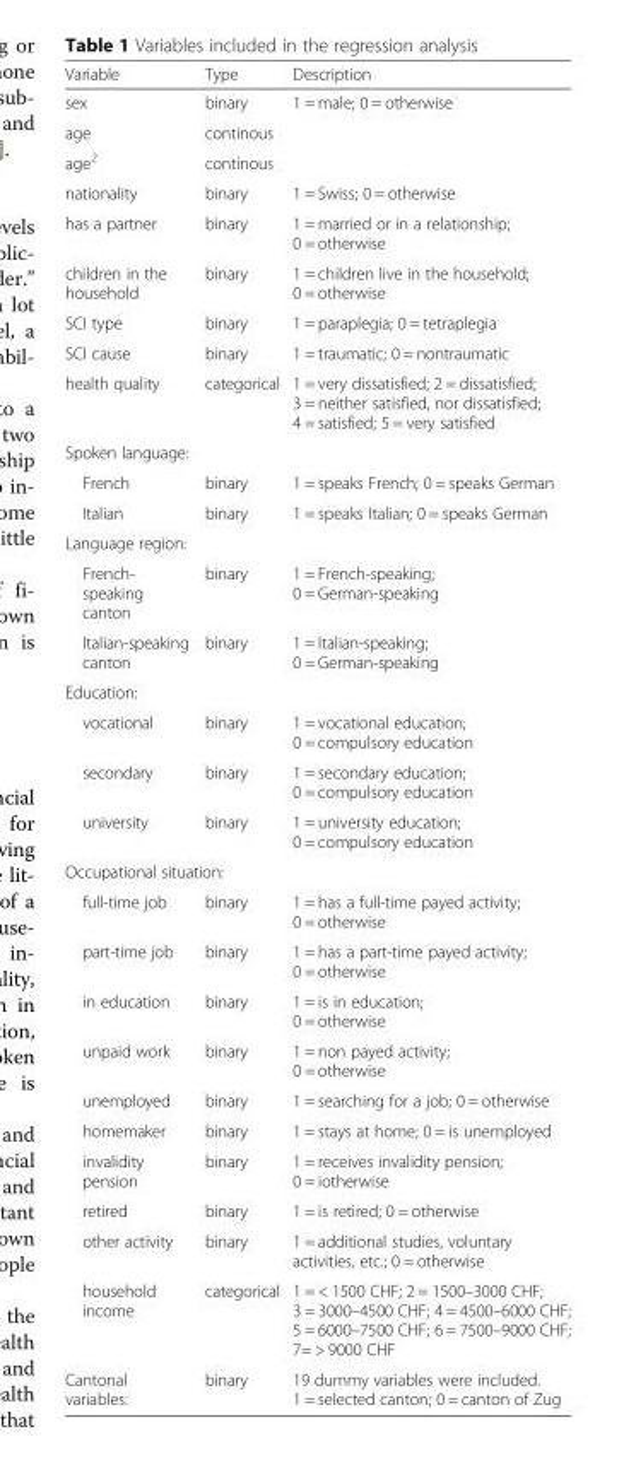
<table><thead><tr><td>Variable</td><td>Type</td><td>Description</td></tr></thead><tbody><tr><td>sex</td><td>binary</td><td>1 = male; 0 = otherwise</td></tr><tr><td>age</td><td>continous</td><td></td></tr><tr><td>age<sup>2</sup></td><td>continous</td><td></td></tr><tr><td>nationality</td><td>binary</td><td>1 = Swiss; 0 = otherwise</td></tr><tr><td>has a partner</td><td>binary</td><td>1 = married or in a relationship; 0 = otherwise</td></tr><tr><td>children in the household</td><td>binary</td><td>1 = children live in the household; 0 = otherwise</td></tr><tr><td>SCI type</td><td>binary</td><td>1 = paraplegia; 0 = tetraplegia</td></tr><tr><td>SCI cause</td><td>binary</td><td>1 = traumatic; 0 = nontraumatic</td></tr><tr><td>health quality</td><td>categorical</td><td>1 = very dissatisfied; 2 = dissatisfied; 3 = neither satisfied, nor dissatisfied; 4 = satisfied; 5 = very satisfied</td></tr><tr><td colspan="3">Spoken language:</td></tr><tr><td>French</td><td>binary</td><td>1 = speaks French; 0 = speaks German</td></tr><tr><td>Italian</td><td>binary</td><td>1 = speaks Italian; 0 = speaks German</td></tr><tr><td colspan="3">Language region:</td></tr><tr><td>French- speaking canton</td><td>binary</td><td>1 = French-speaking; 0 = German-speaking</td></tr><tr><td>Italian-speaking canton</td><td>binary</td><td>1 = Italian-speaking; 0 = German-speaking</td></tr><tr><td colspan="3">Education:</td></tr><tr><td>vocational</td><td>binary</td><td>1 = vocational education; 0 = compulsory education</td></tr><tr><td>secondary</td><td>binary</td><td>1 = secondary education; 0 = compulsory education</td></tr><tr><td>university</td><td>binary</td><td>1 = university education; 0 = compulsory education</td></tr><tr><td colspan="3">Occupational situation:</td></tr><tr><td>full-time job</td><td>binary</td><td>1 = has a full-time payed activity; 0 = otherwise</td></tr><tr><td>part-time job</td><td>binary</td><td>1 = has a part-time payed activity; 0 = otherwise</td></tr><tr><td>in education</td><td>binary</td><td>1 = is in education; 0 = otherwise</td></tr><tr><td>unpaid work</td><td>binary</td><td>1 = non payed activity; 0 = otherwise</td></tr><tr><td>unemployed</td><td>binary</td><td>1 = searching for a job; 0 = otherwise</td></tr><tr><td>homemaker</td><td>binary</td><td>1 = stays at home; 0 = is unemployed</td></tr><tr><td>invalidity pension</td><td>binary</td><td>1 = receives invalidity pension; 0 = iotherwise</td></tr><tr><td>retired</td><td>binary</td><td>1 = is retired; 0 = otherwise</td></tr><tr><td>other activity</td><td>binary</td><td>1 = additional studies, voluntary activities, etc.; 0 = otherwise</td></tr><tr><td>household income</td><td>categorical</td><td>1 = &lt; 1500 CHF; 2 = 1500–3000 CHF; 3 = 3000–4500 CHF; 4 = 4500–6000 CHF; 5 = 6000–7500 CHF; 6 = 7500–9000 CHF; 7= &gt; 9000 CHF</td></tr><tr><td>Cantonal variables:</td><td>binary</td><td>19 dummy variables were included. 1 = selected canton; 0 = canton of Zug</td></tr></tbody></table>